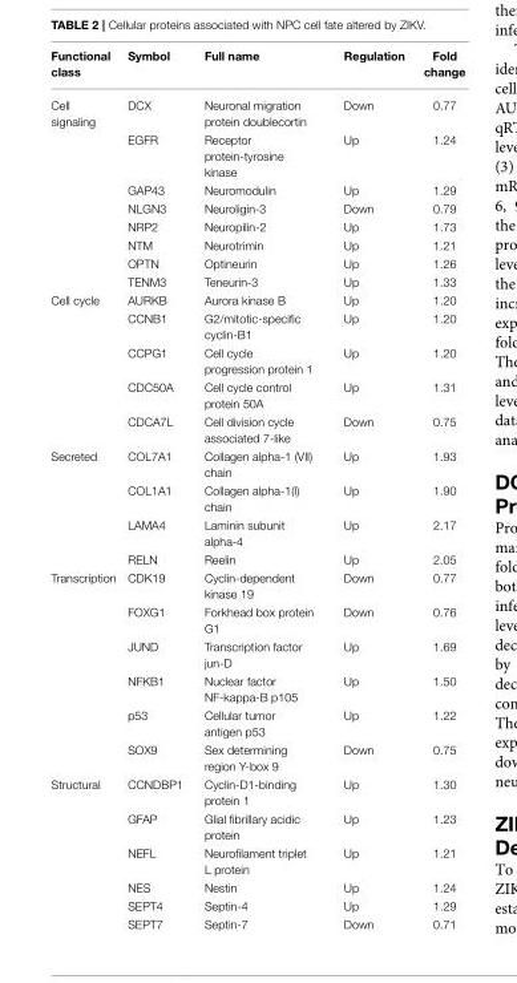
<table><thead><tr><td>Functional class</td><td>Symbol</td><td>Full name</td><td>Regulation</td><td>Fold change</td></tr></thead><tbody><tr><td rowspan="8">Cell signaling</td><td>DCX</td><td>Neuronal migration protein doublecortin</td><td>Down</td><td>0.77</td></tr><tr><td>EGFR</td><td>Receptor protein-tyrosine kinase</td><td>Up</td><td>1.24</td></tr><tr><td>GAP43</td><td>Neuromodulin</td><td>Up</td><td>1.29</td></tr><tr><td>NLGN3</td><td>Neuroligin-3</td><td>Down</td><td>0.79</td></tr><tr><td>NRP2</td><td>Neuropilin-2</td><td>Up</td><td>1.73</td></tr><tr><td>NTM</td><td>Neurotrimin</td><td>Up</td><td>1.21</td></tr><tr><td>OPTN</td><td>Optineurin</td><td>Up</td><td>1.26</td></tr><tr><td>TENM3</td><td>Teneurin-3</td><td>Up</td><td>1.33</td></tr><tr><td rowspan="5">Cell cycle</td><td>AURKB</td><td>Aurora kinase B</td><td>Up</td><td>1.20</td></tr><tr><td>CCNB1</td><td>G2/mitotic-specific cyclin-B1</td><td>Up</td><td>1.20</td></tr><tr><td>CCPG1</td><td>Cell cycle progression protein 1</td><td>Up</td><td>1.20</td></tr><tr><td>CDC50A</td><td>Cell cycle control protein 50A</td><td>Up</td><td>1.31</td></tr><tr><td>CDCA7L</td><td>Cell division cycle associated 7-like</td><td>Down</td><td>0.75</td></tr><tr><td rowspan="4">Secreted</td><td>COL7A1</td><td>Collagen alpha-1 (VII) chain</td><td>Up</td><td>1.93</td></tr><tr><td>COL1A1</td><td>Collagen alpha-1(I) chain</td><td>Up</td><td>1.90</td></tr><tr><td>LAMA4</td><td>Laminin subunit alpha-4</td><td>Up</td><td>2.17</td></tr><tr><td>RELN</td><td>Reelin</td><td>Up</td><td>2.05</td></tr><tr><td rowspan="6">Transcription</td><td>CDK19</td><td>Cyclin-dependent kinase 19</td><td>Down</td><td>0.77</td></tr><tr><td>FOXG1</td><td>Forkhead box protein G1</td><td>Down</td><td>0.76</td></tr><tr><td>JUND</td><td>Transcription factor jun-D</td><td>Up</td><td>1.69</td></tr><tr><td>NFKB1</td><td>Nuclear factor NF-kappa-B p105</td><td>Up</td><td>1.50</td></tr><tr><td>p53</td><td>Cellular tumor antigen p53</td><td>Up</td><td>1.22</td></tr><tr><td>SOX9</td><td>Sex determining region Y-box 9</td><td>Down</td><td>0.75</td></tr><tr><td rowspan="6">Structural</td><td>CCNDBP1</td><td>Cyclin-D1-binding protein 1</td><td>Up</td><td>1.30</td></tr><tr><td>GFAP</td><td>Glial fibrillary acidic protein</td><td>Up</td><td>1.23</td></tr><tr><td>NEFL</td><td>Neurofilament triplet L protein</td><td>Up</td><td>1.21</td></tr><tr><td>NES</td><td>Nestin</td><td>Up</td><td>1.24</td></tr><tr><td>SEPT4</td><td>Septin-4</td><td>Up</td><td>1.29</td></tr><tr><td>SEPT7</td><td>Septin-7</td><td>Down</td><td>0.71</td></tr></tbody></table>